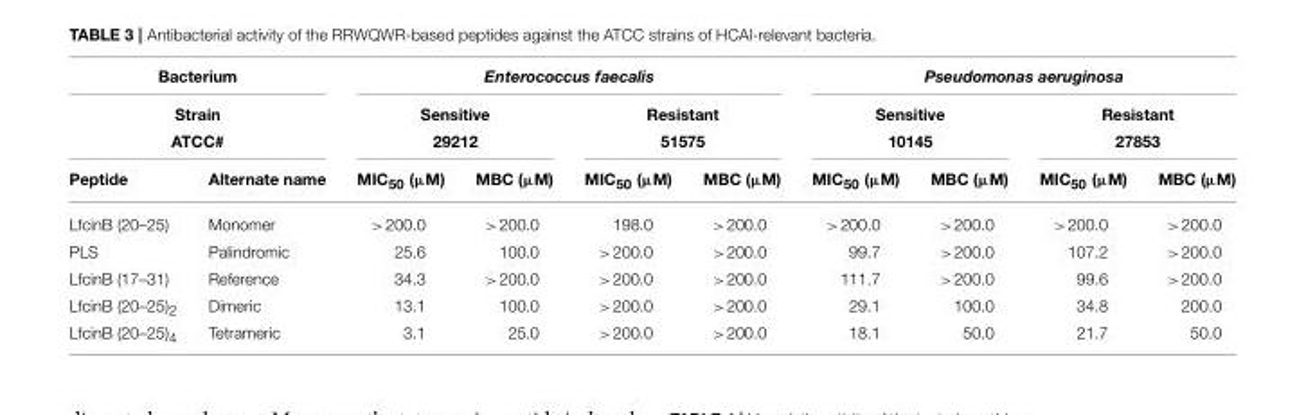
<table><thead><tr><td rowspan="2" colspan="2">Bacterium Strain ATCC#</td><td colspan="4">Enterococcus faecalis</td><td colspan="4">Pseudomonas aeruginosa</td></tr><tr><td colspan="2">Sensitive 29212</td><td colspan="2">Resistant 51575</td><td colspan="2">Sensitive 10145</td><td colspan="2">Resistant 27853</td></tr><tr><td>Peptide</td><td>Alternate name</td><td>MIC<sub>50</sub> (µM)</td><td>MBC (µM)</td><td>MIC<sub>50</sub> (µM)</td><td>MBC (µM)</td><td>MIC<sub>50</sub> (µM)</td><td>MBC (µM)</td><td>MIC<sub>50</sub> (µM)</td><td>MBC (µM)</td></tr></thead><tbody><tr><td>LfcinB (20–25)</td><td>Monomer</td><td>&gt;200.0</td><td>&gt;200.0</td><td>198.0</td><td>&gt;200.0</td><td>&gt;200.0</td><td>&gt;200.0</td><td>&gt;200.0</td><td>&gt;200.0</td></tr><tr><td>PLS</td><td>Palindromic</td><td>25.6</td><td>100.0</td><td>&gt;200.0</td><td>&gt;200.0</td><td>99.7</td><td>&gt;200.0</td><td>107.2</td><td>&gt;200.0</td></tr><tr><td>LfcinB (17–31)</td><td>Reference</td><td>34.3</td><td>&gt;200.0</td><td>&gt;200.0</td><td>&gt;200.0</td><td>111.7</td><td>&gt;200.0</td><td>99.6</td><td>&gt;200.0</td></tr><tr><td>LfcinB (20–25)<sub>2</sub></td><td>Dimeric</td><td>13.1</td><td>100.0</td><td>&gt;200.0</td><td>&gt;200.0</td><td>29.1</td><td>100.0</td><td>34.8</td><td>200.0</td></tr><tr><td>LfcinB (20–25)<sub>4</sub></td><td>Tetrameric</td><td>3.1</td><td>25.0</td><td>&gt;200.0</td><td>&gt;200.0</td><td>18.1</td><td>50.0</td><td>21.7</td><td>50.0</td></tr></tbody></table>